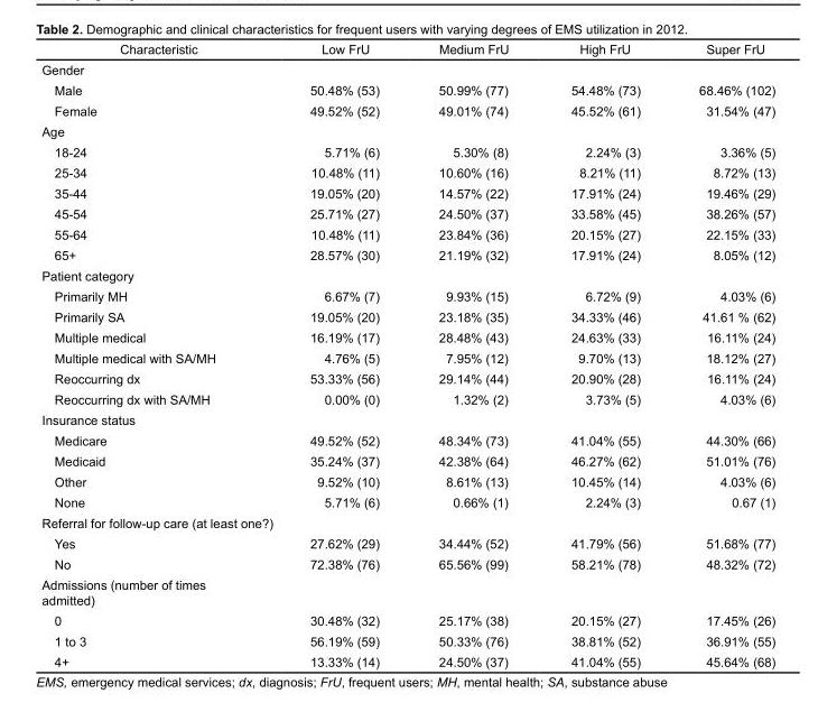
<table><thead><tr><td>Characteristic</td><td>Low FrU</td><td>Medium FrU</td><td>High FrU</td><td>Super FrU</td></tr></thead><tbody><tr><td colspan="5">Gender</td></tr><tr><td>Male</td><td>50.48% (53)</td><td>50.99% (77)</td><td>54.48% (73)</td><td>68.46% (102)</td></tr><tr><td>Female</td><td>49.52% (52)</td><td>49.01% (74)</td><td>45.52% (61)</td><td>31.54% (47)</td></tr><tr><td colspan="5">Age</td></tr><tr><td>18-24</td><td>5.71% (6)</td><td>5.30% (8)</td><td>2.24% (3)</td><td>3.36% (5)</td></tr><tr><td>25-34</td><td>10.48% (11)</td><td>10.60% (16)</td><td>8.21% (11)</td><td>8.72% (13)</td></tr><tr><td>35-44</td><td>19.05% (20)</td><td>14.57% (22)</td><td>17.91% (24)</td><td>19.46% (29)</td></tr><tr><td>45-54</td><td>25.71% (27)</td><td>24.50% (37)</td><td>33.58% (45)</td><td>38.26% (57)</td></tr><tr><td>55-64</td><td>10.48% (11)</td><td>23.84% (36)</td><td>20.15% (27)</td><td>22.15% (33)</td></tr><tr><td>65+</td><td>28.57% (30)</td><td>21.19% (32)</td><td>17.91% (24)</td><td>8.05% (12)</td></tr><tr><td colspan="5">Patient category</td></tr><tr><td>Primarily MH</td><td>6.67% (7)</td><td>9.93% (15)</td><td>6.72% (9)</td><td>4.03% (6)</td></tr><tr><td>Primarily SA</td><td>19.05% (20)</td><td>23.18% (35)</td><td>34.33% (46)</td><td>41.61 % (62)</td></tr><tr><td>Multiple medical</td><td>16.19% (17)</td><td>28.48% (43)</td><td>24.63% (33)</td><td>16.11% (24)</td></tr><tr><td>Multiple medical with SA/MH</td><td>4.76% (5)</td><td>7.95% (12)</td><td>9.70% (13)</td><td>18.12% (27)</td></tr><tr><td>Reoccurring dx</td><td>53.33% (56)</td><td>29.14% (44)</td><td>20.90% (28)</td><td>16.11% (24)</td></tr><tr><td>Reoccurring dx with SA/MH</td><td>0.00% (0)</td><td>1.32% (2)</td><td>3.73% (5)</td><td>4.03% (6)</td></tr><tr><td colspan="5">Insurance status</td></tr><tr><td>Medicare</td><td>49.52% (52)</td><td>48.34% (73)</td><td>41.04% (55)</td><td>44.30% (66)</td></tr><tr><td>Medicaid</td><td>35.24% (37)</td><td>42.38% (64)</td><td>46.27% (62)</td><td>51.01% (76)</td></tr><tr><td>Other</td><td>9.52% (10)</td><td>8.61% (13)</td><td>10.45% (14)</td><td>4.03% (6)</td></tr><tr><td>None</td><td>5.71% (6)</td><td>0.66% (1)</td><td>2.24% (3)</td><td>0.67 (1)</td></tr><tr><td colspan="5">Referral for follow-up care (at least one?)</td></tr><tr><td>Yes</td><td>27.62% (29)</td><td>34.44% (52)</td><td>41.79% (56)</td><td>51.68% (77)</td></tr><tr><td>No</td><td>72.38% (76)</td><td>65.56% (99)</td><td>58.21% (78)</td><td>48.32% (72)</td></tr><tr><td colspan="5">Admissions (number of times admitted)</td></tr><tr><td>0</td><td>30.48% (32)</td><td>25.17% (38)</td><td>20.15% (27)</td><td>17.45% (26)</td></tr><tr><td>1 to 3</td><td>56.19% (59)</td><td>50.33% (76)</td><td>38.81% (52)</td><td>36.91% (55)</td></tr><tr><td>4+</td><td>13.33% (14)</td><td>24.50% (37)</td><td>41.04% (55)</td><td>45.64% (68)</td></tr></tbody></table>